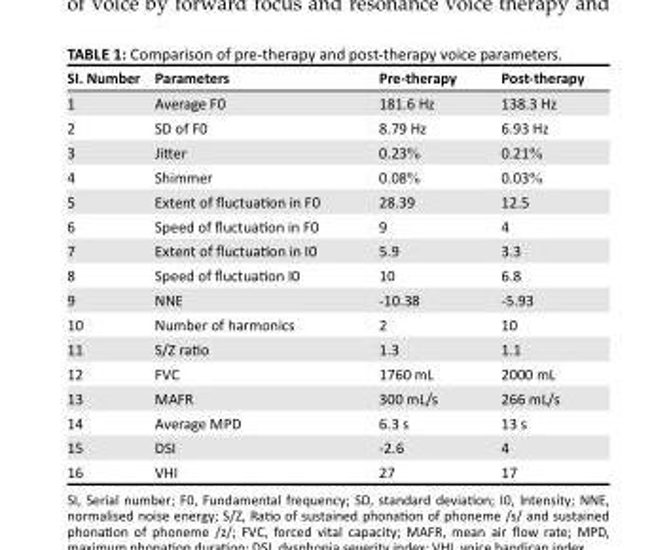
<table><thead><tr><td>SI. Number</td><td>Parameters</td><td>Pre-therapy</td><td>Post-therapy</td></tr></thead><tbody><tr><td>1</td><td>Average F0</td><td>181.6 Hz</td><td>138.3 Hz</td></tr><tr><td>2</td><td>SD of F0</td><td>8.79 Hz</td><td>6.93 Hz</td></tr><tr><td>3</td><td>Jitter</td><td>0.23%</td><td>0.21%</td></tr><tr><td>4</td><td>Shimmer</td><td>0.08%</td><td>0.03%</td></tr><tr><td>5</td><td>Extent of fluctuation in F0</td><td>28.39</td><td>12.5</td></tr><tr><td>6</td><td>Speed of fluctuation in F0</td><td>9</td><td>4</td></tr><tr><td>7</td><td>Extent of fluctuation in I0</td><td>5.9</td><td>3.3</td></tr><tr><td>8</td><td>Speed of fluctuation I0</td><td>10</td><td>6.8</td></tr><tr><td>9</td><td>NNE</td><td>-10.38</td><td>-5.93</td></tr><tr><td>10</td><td>Number of harmonics</td><td>2</td><td>10</td></tr><tr><td>11</td><td>S/Z ratio</td><td>1.3</td><td>1.1</td></tr><tr><td>12</td><td>FVC</td><td>1760 mL</td><td>2000 mL</td></tr><tr><td>13</td><td>MAFR</td><td>300 mL/s</td><td>266 mL/s</td></tr><tr><td>14</td><td>Average MPD</td><td>6.3 s</td><td>13 s</td></tr><tr><td>15</td><td>DSI</td><td>-2.6</td><td>4</td></tr><tr><td>16</td><td>VHI</td><td>27</td><td>17</td></tr></tbody></table>